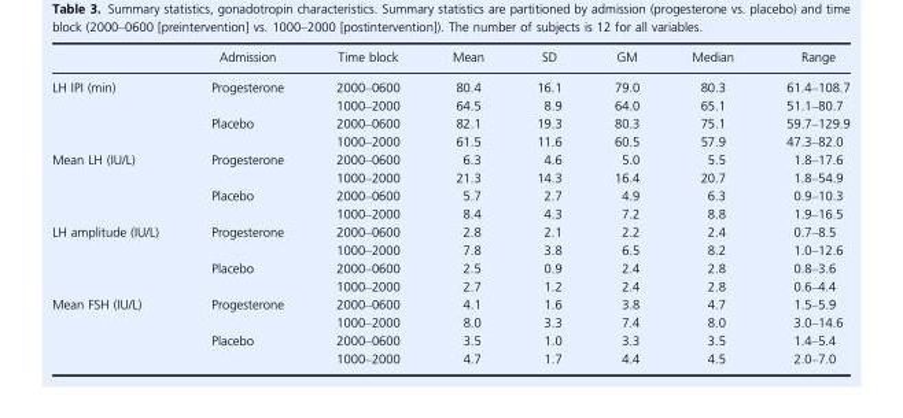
<table><thead><tr><td></td><td>Admission</td><td>Time block</td><td>Mean</td><td>SD</td><td>GM</td><td>Median</td><td>Range</td></tr></thead><tbody><tr><td rowspan="4">LH IPI (min)</td><td rowspan="2">Progesterone</td><td>2000–0600</td><td>80.4</td><td>16.1</td><td>79.0</td><td>80.3</td><td>61.4–108.7</td></tr><tr><td>1000–2000</td><td>64.5</td><td>8.9</td><td>64.0</td><td>65.1</td><td>51.1–80.7</td></tr><tr><td rowspan="2">Placebo</td><td>2000–0600</td><td>82.1</td><td>19.3</td><td>80.3</td><td>75.1</td><td>59.7–129.9</td></tr><tr><td>1000–2000</td><td>61.5</td><td>11.6</td><td>60.5</td><td>57.9</td><td>47.3–82.0</td></tr><tr><td rowspan="4">Mean LH (IU/L)</td><td rowspan="2">Progesterone</td><td>2000–0600</td><td>6.3</td><td>4.6</td><td>5.0</td><td>5.5</td><td>1.8–17.6</td></tr><tr><td>1000–2000</td><td>21.3</td><td>14.3</td><td>16.4</td><td>20.7</td><td>1.8–54.9</td></tr><tr><td rowspan="2">Placebo</td><td>2000–0600</td><td>5.7</td><td>2.7</td><td>4.9</td><td>6.3</td><td>0.9–10.3</td></tr><tr><td>1000–2000</td><td>8.4</td><td>4.3</td><td>7.2</td><td>8.8</td><td>1.9–16.5</td></tr><tr><td rowspan="4">LH amplitude (IU/L)</td><td rowspan="2">Progesterone</td><td>2000–0600</td><td>2.8</td><td>2.1</td><td>2.2</td><td>2.4</td><td>0.7–8.5</td></tr><tr><td>1000–2000</td><td>7.8</td><td>3.8</td><td>6.5</td><td>8.2</td><td>1.0–12.6</td></tr><tr><td rowspan="2">Placebo</td><td>2000–0600</td><td>2.5</td><td>0.9</td><td>2.4</td><td>2.8</td><td>0.8–3.6</td></tr><tr><td>1000–2000</td><td>2.7</td><td>1.2</td><td>2.4</td><td>2.8</td><td>0.6–4.4</td></tr><tr><td rowspan="4">Mean FSH (IU/L)</td><td rowspan="2">Progesterone</td><td>2000–0600</td><td>4.1</td><td>1.6</td><td>3.8</td><td>4.7</td><td>1.5–5.9</td></tr><tr><td>1000–2000</td><td>8.0</td><td>3.3</td><td>7.4</td><td>8.0</td><td>3.0–14.6</td></tr><tr><td rowspan="2">Placebo</td><td>2000–0600</td><td>3.5</td><td>1.0</td><td>3.3</td><td>3.5</td><td>1.4–5.4</td></tr><tr><td>1000–2000</td><td>4.7</td><td>1.7</td><td>4.4</td><td>4.5</td><td>2.0–7.0</td></tr></tbody></table>